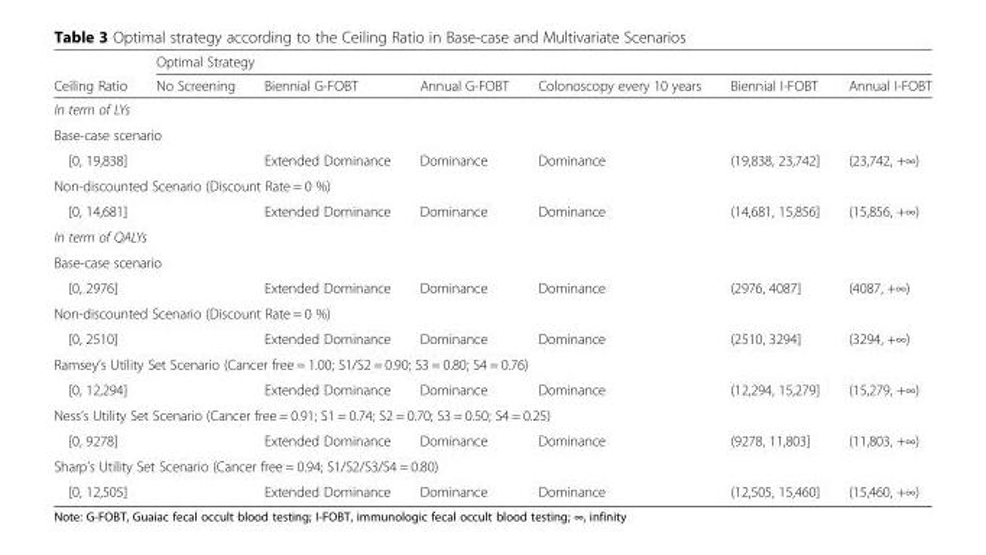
<table><thead><tr><td rowspan="2">Ceiling Ratio</td><td colspan="6">Optimal Strategy</td></tr><tr><td>No Screening</td><td>Biennial G-FOBT</td><td>Annual G-FOBT</td><td>Colonoscopy every 10 years</td><td>Biennial I-FOBT</td><td>Annual I-FOBT</td></tr></thead><tbody><tr><td colspan="7">In term of LYs</td></tr><tr><td colspan="7">Base-case scenario</td></tr><tr><td colspan="2">[0, 19,838]</td><td>Extended Dominance</td><td>Dominance</td><td>Dominance</td><td>(19,838, 23,742]</td><td>(23,742, +∞)</td></tr><tr><td colspan="7">Non-discounted Scenario (Discount Rate = 0 %)</td></tr><tr><td colspan="2">[0, 14,681]</td><td>Extended Dominance</td><td>Dominance</td><td>Dominance</td><td>(14,681, 15,856]</td><td>(15,856, +∞)</td></tr><tr><td colspan="7">In term of QALYs</td></tr><tr><td colspan="7">Base-case scenario</td></tr><tr><td colspan="2">[0, 2976]</td><td>Extended Dominance</td><td>Dominance</td><td>Dominance</td><td>(2976, 4087]</td><td>(4087, +∞)</td></tr><tr><td colspan="7">Non-discounted Scenario (Discount Rate = 0 %)</td></tr><tr><td colspan="2">[0, 2510]</td><td>Extended Dominance</td><td>Dominance</td><td>Dominance</td><td>(2510, 3294]</td><td>(3294, +∞)</td></tr><tr><td colspan="7">Ramsey’s Utility Set Scenario (Cancer free = 1.00; S1/S2 = 0.90; S3 = 0.80; S4 = 0.76)</td></tr><tr><td colspan="2">[0, 12,294]</td><td>Extended Dominance</td><td>Dominance</td><td>Dominance</td><td>(12,294, 15,279]</td><td>(15,279, +∞)</td></tr><tr><td colspan="7">Ness’s Utility Set Scenario (Cancer free = 0.91; S1 = 0.74; S2 = 0.70; S3 = 0.50; S4 = 0.25)</td></tr><tr><td colspan="2">[0, 9278]</td><td>Extended Dominance</td><td>Dominance</td><td>Dominance</td><td>(9278, 11,803]</td><td>(11,803, +∞)</td></tr><tr><td colspan="7">Sharp’s Utility Set Scenario (Cancer free = 0.94; S1/S2/S3/S4 = 0.80)</td></tr><tr><td colspan="2">[0, 12,505]</td><td>Extended Dominance</td><td>Dominance</td><td>Dominance</td><td>(12,505, 15,460]</td><td>(15,460, +∞)</td></tr></tbody></table>